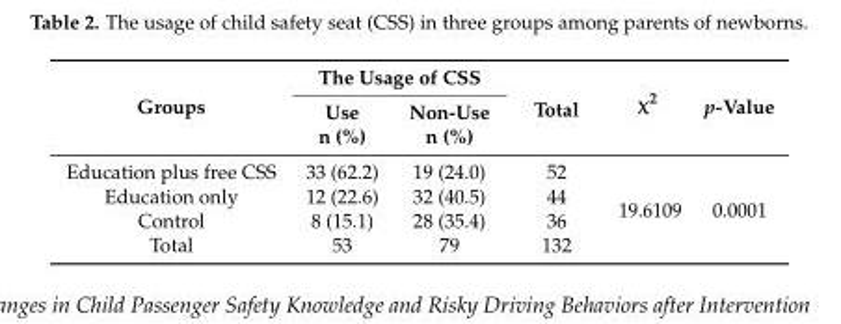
<table><thead><tr><td rowspan="2">Groups</td><td colspan="2">The Usage of CSS</td><td rowspan="2">Total</td><td rowspan="2">χ<sup>2</sup></td><td rowspan="2">p-Value</td></tr><tr><td>Use n (%)</td><td>Non-Use n (%)</td></tr></thead><tbody><tr><td>Education plus free CSS</td><td>33 (62.2)</td><td>19 (24.0)</td><td>52</td><td rowspan="4">19.6109</td><td rowspan="4">0.0001</td></tr><tr><td>Education only</td><td>12 (22.6)</td><td>32 (40.5)</td><td>44</td></tr><tr><td>Control</td><td>8 (15.1)</td><td>28 (35.4)</td><td>36</td></tr><tr><td>Total</td><td>53</td><td>79</td><td>132</td></tr></tbody></table>